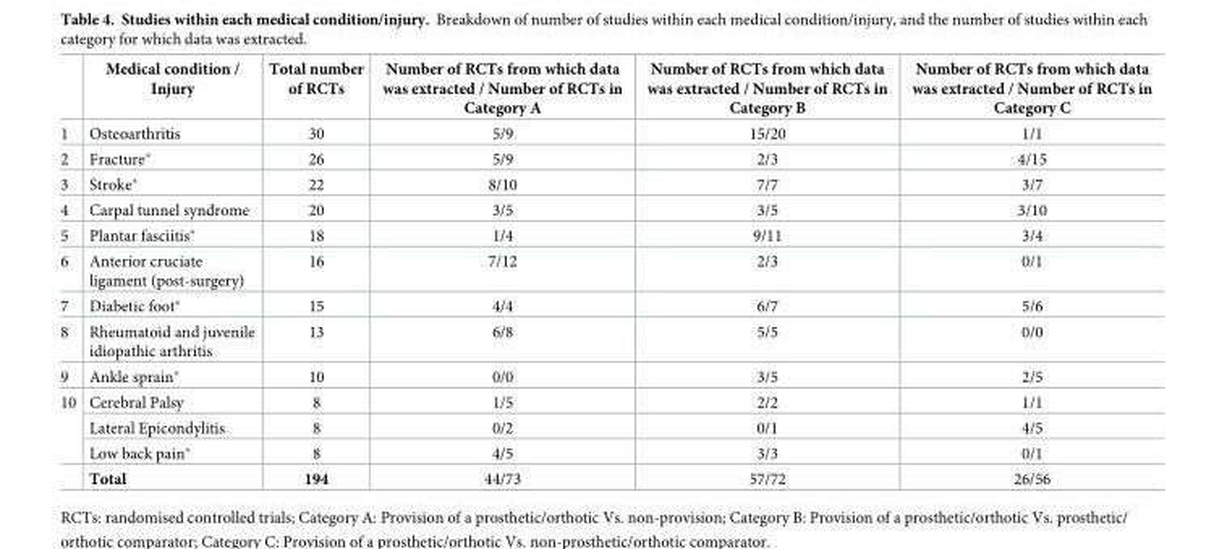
<table><thead><tr><td></td><td>Medical condition / Injury</td><td>Total number of RCTs</td><td>Number of RCTs from which data was extracted / Number of RCTs in Category A</td><td>Number of RCTs from which data was extracted / Number of RCTs in Category B</td><td>Number of RCTs from which data was extracted / Number of RCTs in Category C</td></tr></thead><tbody><tr><td>1</td><td>Osteoarthritis</td><td>30</td><td>5/9</td><td>15/20</td><td>1/1</td></tr><tr><td>2</td><td>Fracture*</td><td>26</td><td>5/9</td><td>2/3</td><td>4/15</td></tr><tr><td>3</td><td>Stroke*</td><td>22</td><td>8/10</td><td>7/7</td><td>3/7</td></tr><tr><td>4</td><td>Carpal tunnel syndrome</td><td>20</td><td>3/5</td><td>3/5</td><td>3/10</td></tr><tr><td>5</td><td>Plantar fasciitis*</td><td>18</td><td>1/4</td><td>9/11</td><td>3/4</td></tr><tr><td>6</td><td>Anterior cruciate ligament (post-surgery)</td><td>16</td><td>7/12</td><td>2/3</td><td>0/1</td></tr><tr><td>7</td><td>Diabetic foot*</td><td>15</td><td>4/4</td><td>6/7</td><td>5/6</td></tr><tr><td>8</td><td>Rheumatoid and juvenile idiopathic arthritis</td><td>13</td><td>6/8</td><td>5/5</td><td>0/0</td></tr><tr><td>9</td><td>Ankle sprain*</td><td>10</td><td>0/0</td><td>3/5</td><td>2/5</td></tr><tr><td rowspan="4">10</td><td>Cerebral Palsy</td><td>8</td><td>1/5</td><td>2/2</td><td>1/1</td></tr><tr><td>Lateral Epicondylitis</td><td>8</td><td>0/2</td><td>0/1</td><td>4/5</td></tr><tr><td>Low back pain*</td><td>8</td><td>4/5</td><td>3/3</td><td>0/1</td></tr><tr><td>Total</td><td>194</td><td>44/73</td><td>57/72</td><td>26/56</td></tr></tbody></table>